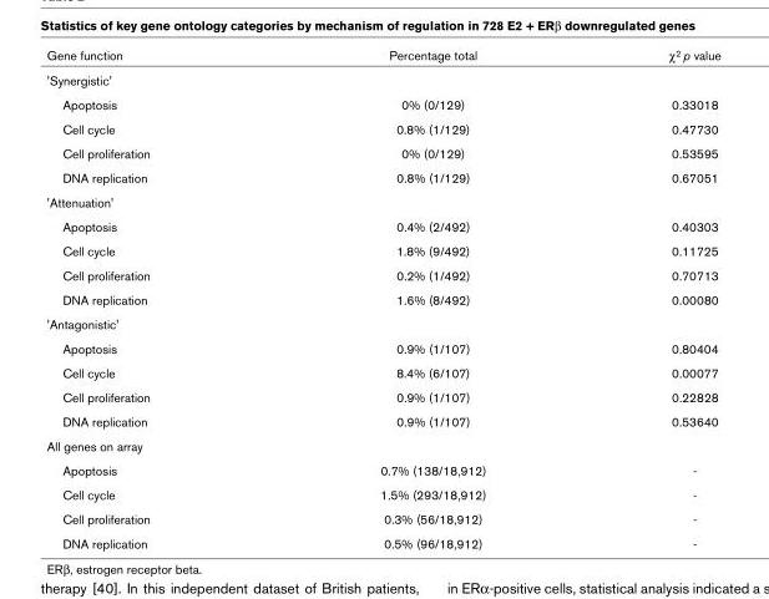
<table><thead><tr><td>Gene function</td><td>Percentage total</td><td>χ2 p value</td></tr></thead><tbody><tr><td colspan="3">&#x27;Synergistic&#x27;</td></tr><tr><td>Apoptosis</td><td>0% (0/129)</td><td>0.33018</td></tr><tr><td>Cell cycle</td><td>0.8% (1/129)</td><td>0.47730</td></tr><tr><td>Cell proliferation</td><td>0% (0/129)</td><td>0.53595</td></tr><tr><td>DNA replication</td><td>0.8% (1/129)</td><td>0.67051</td></tr><tr><td colspan="3">&#x27;Attenuation&#x27;</td></tr><tr><td>Apoptosis</td><td>0.4% (2/492)</td><td>0.40303</td></tr><tr><td>Cell cycle</td><td>1.8% (9/492)</td><td>0.11725</td></tr><tr><td>Cell proliferation</td><td>0.2% (1/492)</td><td>0.70713</td></tr><tr><td>DNA replication</td><td>1.6% (8/492)</td><td>0.00080</td></tr><tr><td colspan="3">&#x27;Antagonistic&#x27;</td></tr><tr><td>Apoptosis</td><td>0.9% (1/107)</td><td>0.80404</td></tr><tr><td>Cell cycle</td><td>8.4% (6/107)</td><td>0.00077</td></tr><tr><td>Cell proliferation</td><td>0.9% (1/107)</td><td>0.22828</td></tr><tr><td>DNA replication</td><td>0.9% (1/107)</td><td>0.53640</td></tr><tr><td colspan="3">All genes on array</td></tr><tr><td>Apoptosis</td><td>0.7% (138/18,912)</td><td>-</td></tr><tr><td>Cell cycle</td><td>1.5% (293/18,912)</td><td>-</td></tr><tr><td>Cell proliferation</td><td>0.3% (56/18,912)</td><td>-</td></tr><tr><td>DNA replication</td><td>0.5% (96/18,912)</td><td>-</td></tr></tbody></table>